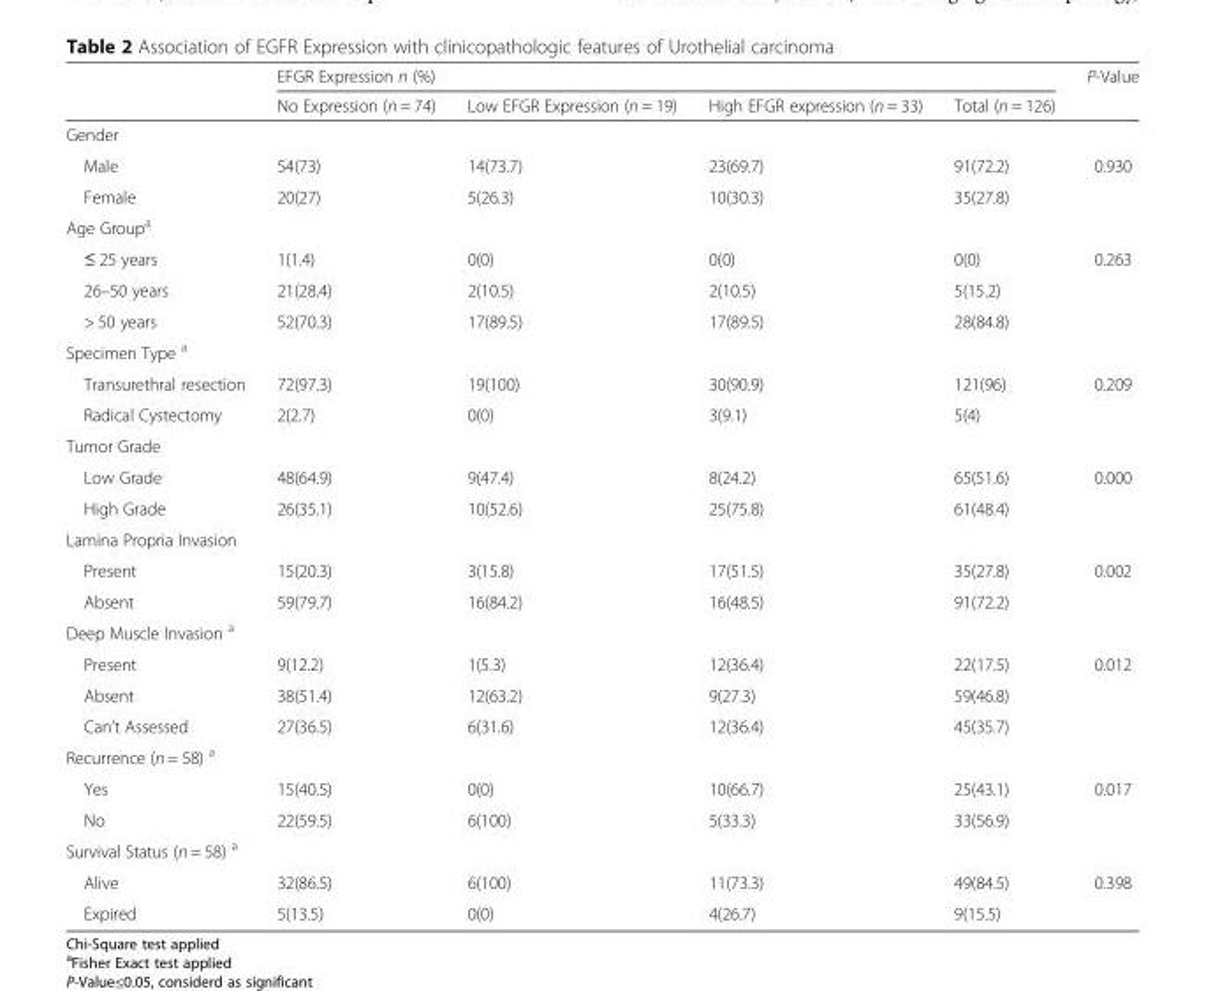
<table><thead><tr><td rowspan="2"></td><td colspan="4">EFGR Expression n (%)</td><td rowspan="2">P-Value</td></tr><tr><td>No Expression (n = 74)</td><td>Low EFGR Expression (n = 19)</td><td>High EFGR expression (n = 33)</td><td>Total (n = 126)</td></tr></thead><tbody><tr><td colspan="6">Gender</td></tr><tr><td>Male</td><td>54(73)</td><td>14(73.7)</td><td>23(69.7)</td><td>91(72.2)</td><td rowspan="2">0.930</td></tr><tr><td>Female</td><td>20(27)</td><td>5(26.3)</td><td>10(30.3)</td><td>35(27.8)</td></tr><tr><td colspan="6">Age Group<sup>a</sup></td></tr><tr><td>≤ 25 years</td><td>1(1.4)</td><td>0(0)</td><td>0(0)</td><td>0(0)</td><td rowspan="3">0.263</td></tr><tr><td>26–50 years</td><td>21(28.4)</td><td>2(10.5)</td><td>2(10.5)</td><td>5(15.2)</td></tr><tr><td>&gt; 50 years</td><td>52(70.3)</td><td>17(89.5)</td><td>17(89.5)</td><td>28(84.8)</td></tr><tr><td colspan="6">Specimen Type <sup>a</sup></td></tr><tr><td>Transurethral resection</td><td>72(97.3)</td><td>19(100)</td><td>30(90.9)</td><td>121(96)</td><td rowspan="2">0.209</td></tr><tr><td>Radical Cystectomy</td><td>2(2.7)</td><td>0(0)</td><td>3(9.1)</td><td>5(4)</td></tr><tr><td colspan="6">Tumor Grade</td></tr><tr><td>Low Grade</td><td>48(64.9)</td><td>9(47.4)</td><td>8(24.2)</td><td>65(51.6)</td><td rowspan="2">0.000</td></tr><tr><td>High Grade</td><td>26(35.1)</td><td>10(52.6)</td><td>25(75.8)</td><td>61(48.4)</td></tr><tr><td colspan="6">Lamina Propria Invasion</td></tr><tr><td>Present</td><td>15(20.3)</td><td>3(15.8)</td><td>17(51.5)</td><td>35(27.8)</td><td rowspan="2">0.002</td></tr><tr><td>Absent</td><td>59(79.7)</td><td>16(84.2)</td><td>16(48.5)</td><td>91(72.2)</td></tr><tr><td colspan="6">Deep Muscle Invasion <sup>a</sup></td></tr><tr><td>Present</td><td>9(12.2)</td><td>1(5.3)</td><td>12(36.4)</td><td>22(17.5)</td><td rowspan="3">0.012</td></tr><tr><td>Absent</td><td>38(51.4)</td><td>12(63.2)</td><td>9(27.3)</td><td>59(46.8)</td></tr><tr><td>Can’t Assessed</td><td>27(36.5)</td><td>6(31.6)</td><td>12(36.4)</td><td>45(35.7)</td></tr><tr><td colspan="6">Recurrence (n = 58) <sup>a</sup></td></tr><tr><td>Yes</td><td>15(40.5)</td><td>0(0)</td><td>10(66.7)</td><td>25(43.1)</td><td rowspan="2">0.017</td></tr><tr><td>No</td><td>22(59.5)</td><td>6(100)</td><td>5(33.3)</td><td>33(56.9)</td></tr><tr><td colspan="6">Survival Status (n = 58) <sup>a</sup></td></tr><tr><td>Alive</td><td>32(86.5)</td><td>6(100)</td><td>11(73.3)</td><td>49(84.5)</td><td rowspan="2">0.398</td></tr><tr><td>Expired</td><td>5(13.5)</td><td>0(0)</td><td>4(26.7)</td><td>9(15.5)</td></tr></tbody></table>